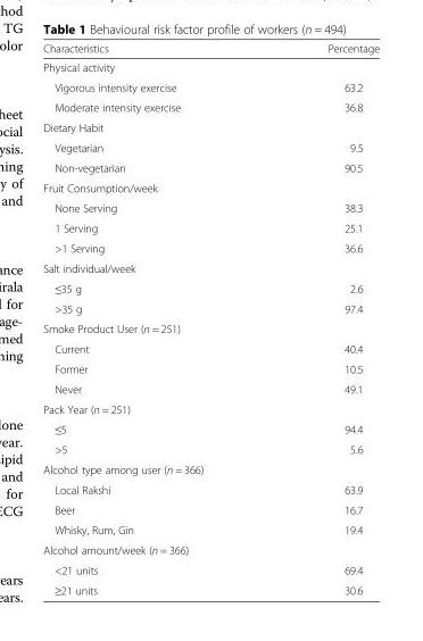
<table><thead><tr><td>Characteristics</td><td>Percentage</td></tr></thead><tbody><tr><td colspan="2">Physical activity</td></tr><tr><td>Vigorous intensity exercise</td><td>63.2</td></tr><tr><td>Moderate intensity exercise</td><td>36.8</td></tr><tr><td colspan="2">Dietary Habit</td></tr><tr><td>Vegetarian</td><td>9.5</td></tr><tr><td>Non-vegetarian</td><td>90.5</td></tr><tr><td colspan="2">Fruit Consumption/week</td></tr><tr><td>None Serving</td><td>38.3</td></tr><tr><td>1 Serving</td><td>25.1</td></tr><tr><td>&gt;1 Serving</td><td>36.6</td></tr><tr><td colspan="2">Salt individual/week</td></tr><tr><td>≤35 g</td><td>2.6</td></tr><tr><td>&gt;35 g</td><td>97.4</td></tr><tr><td colspan="2">Smoke Product User (n = 251)</td></tr><tr><td>Current</td><td>40.4</td></tr><tr><td>Former</td><td>10.5</td></tr><tr><td>Never</td><td>49.1</td></tr><tr><td colspan="2">Pack Year (n = 251)</td></tr><tr><td>≤5</td><td>94.4</td></tr><tr><td>&gt;5</td><td>5.6</td></tr><tr><td colspan="2">Alcohol type among user (n = 366)</td></tr><tr><td>Local Rakshi</td><td>63.9</td></tr><tr><td>Beer</td><td>16.7</td></tr><tr><td>Whisky, Rum, Gin</td><td>19.4</td></tr><tr><td colspan="2">Alcohol amount/week (n = 366)</td></tr><tr><td>&lt;21 units</td><td>69.4</td></tr><tr><td>≥21 units</td><td>30.6</td></tr></tbody></table>